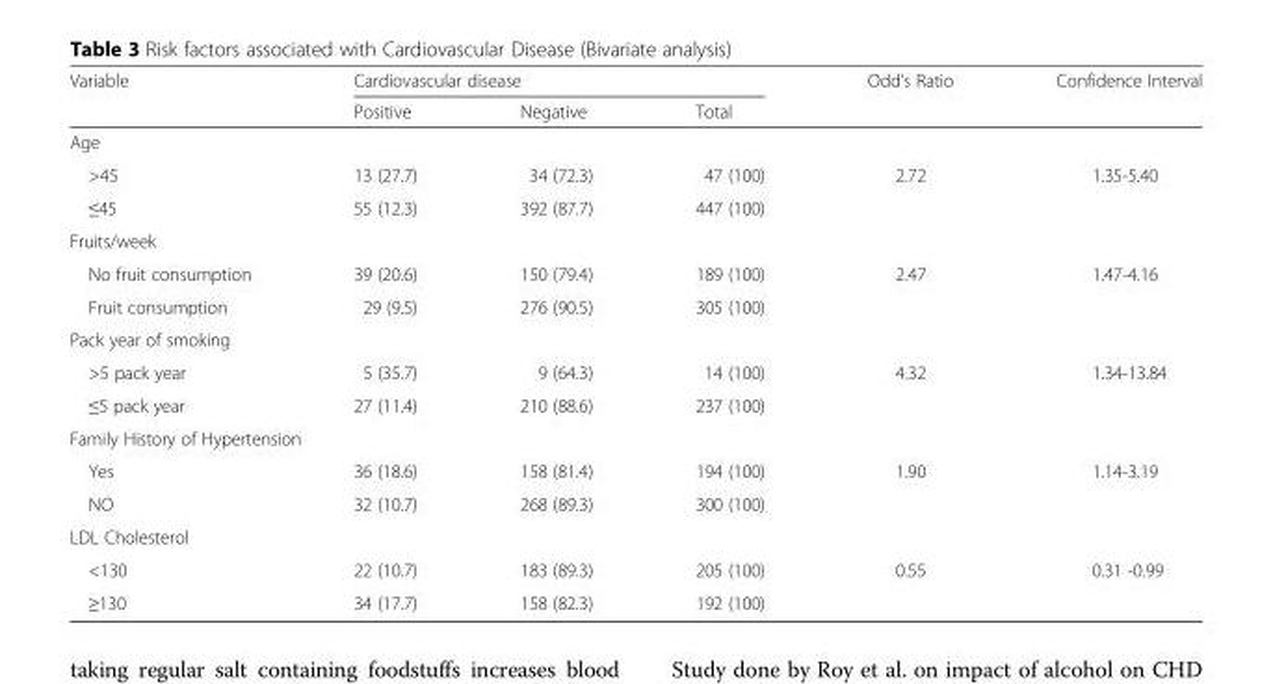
<table><thead><tr><td rowspan="2">Variable</td><td colspan="3">Cardiovascular disease</td><td rowspan="2">Odd’s Ratio</td><td rowspan="2">Confidence Interval</td></tr><tr><td>Positive</td><td>Negative</td><td>Total</td></tr></thead><tbody><tr><td colspan="6">Age</td></tr><tr><td>&gt;45</td><td>13 (27.7)</td><td>34 (72.3)</td><td>47 (100)</td><td rowspan="2">2.72</td><td rowspan="2">1.35-5.40</td></tr><tr><td>≤45</td><td>55 (12.3)</td><td>392 (87.7)</td><td>447 (100)</td></tr><tr><td colspan="6">Fruits/week</td></tr><tr><td>No fruit consumption</td><td>39 (20.6)</td><td>150 (79.4)</td><td>189 (100)</td><td rowspan="2">2.47</td><td rowspan="2">1.47-4.16</td></tr><tr><td>Fruit consumption</td><td>29 (9.5)</td><td>276 (90.5)</td><td>305 (100)</td></tr><tr><td colspan="6">Pack year of smoking</td></tr><tr><td>&gt;5 pack year</td><td>5 (35.7)</td><td>9 (64.3)</td><td>14 (100)</td><td rowspan="2">4.32</td><td rowspan="2">1.34-13.84</td></tr><tr><td>≤5 pack year</td><td>27 (11.4)</td><td>210 (88.6)</td><td>237 (100)</td></tr><tr><td colspan="6">Family History of Hypertension</td></tr><tr><td>Yes</td><td>36 (18.6)</td><td>158 (81.4)</td><td>194 (100)</td><td rowspan="2">1.90</td><td rowspan="2">1.14-3.19</td></tr><tr><td>NO</td><td>32 (10.7)</td><td>268 (89.3)</td><td>300 (100)</td></tr><tr><td colspan="6">LDL Cholesterol</td></tr><tr><td>&lt;130</td><td>22 (10.7)</td><td>183 (89.3)</td><td>205 (100)</td><td rowspan="2">0.55</td><td rowspan="2">0.31 -0.99</td></tr><tr><td>≥130</td><td>34 (17.7)</td><td>158 (82.3)</td><td>192 (100)</td></tr></tbody></table>